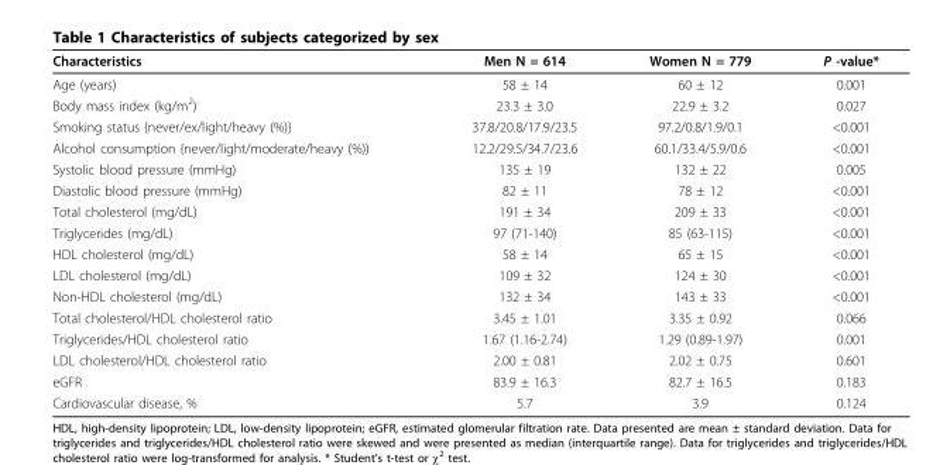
<table><thead><tr><td>Characteristics</td><td>Men N = 614</td><td>Women N = 779</td><td>P -value*</td></tr></thead><tbody><tr><td>Age (years)</td><td>58 ± 14</td><td>60 ± 12</td><td>0.001</td></tr><tr><td>Body mass index (kg/m<sup>2</sup>)</td><td>23.3 ± 3.0</td><td>22.9 ± 3.2</td><td>0.027</td></tr><tr><td>Smoking status {never/ex/light/heavy (%)}</td><td>37.8/20.8/17.9/23.5</td><td>97.2/0.8/1.9/0.1</td><td>&lt;0.001</td></tr><tr><td>Alcohol consumption {never/light/moderate/heavy (%))</td><td>12.2/29.5/34.7/23.6</td><td>60.1/33.4/5.9/0.6</td><td>&lt;0.001</td></tr><tr><td>Systolic blood pressure (mmHg)</td><td>135 ± 19</td><td>132 ± 22</td><td>0.005</td></tr><tr><td>Diastolic blood pressure (mmHg)</td><td>82 ± 11</td><td>78 ± 12</td><td>&lt;0.001</td></tr><tr><td>Total cholesterol (mg/dL)</td><td>191 ± 34</td><td>209 ± 33</td><td>&lt;0.001</td></tr><tr><td>Triglycerides (mg/dL)</td><td>97 (71-140)</td><td>85 (63-115)</td><td>&lt;0.001</td></tr><tr><td>HDL cholesterol (mg/dL)</td><td>58 ± 14</td><td>65 ± 15</td><td>&lt;0.001</td></tr><tr><td>LDL cholesterol (mg/dL)</td><td>109 ± 32</td><td>124 ± 30</td><td>&lt;0.001</td></tr><tr><td>Non-HDL cholesterol (mg/dL)</td><td>132 ± 34</td><td>143 ± 33</td><td>&lt;0.001</td></tr><tr><td>Total cholesterol/HDL cholesterol ratio</td><td>3.45 ± 1.01</td><td>3.35 ± 0.92</td><td>0.066</td></tr><tr><td>Triglycerides/HDL cholesterol ratio</td><td>1.67 (1.16-2.74)</td><td>1.29 (0.89-1.97)</td><td>0.001</td></tr><tr><td>LDL cholesterol/HDL cholesterol ratio</td><td>2.00 ± 0.81</td><td>2.02 ± 0.75</td><td>0.601</td></tr><tr><td>eGFR</td><td>83.9 ± 16.3</td><td>82.7 ± 16.5</td><td>0.183</td></tr><tr><td>Cardiovascular disease, %</td><td>5.7</td><td>3.9</td><td>0.124</td></tr></tbody></table>